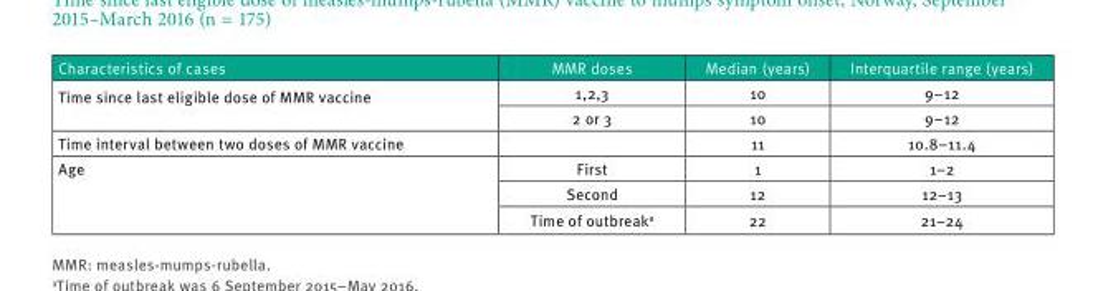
<table><thead><tr><td>Characteristics of cases</td><td>MMR doses</td><td>Median (years)</td><td>Interquartile range (years)</td></tr></thead><tbody><tr><td rowspan="2">Time since last eligible dose of MMR vaccine</td><td>1,2,3</td><td>10</td><td>9–12</td></tr><tr><td>2 or 3</td><td>10</td><td>9–12</td></tr><tr><td>Time interval between two doses of MMR vaccine</td><td></td><td>11</td><td>10.8–11.4</td></tr><tr><td rowspan="3">Age</td><td>First</td><td>1</td><td>1–2</td></tr><tr><td>Second</td><td>12</td><td>12–13</td></tr><tr><td>Time of outbreak<sup>a</sup></td><td>22</td><td>21–24</td></tr></tbody></table>